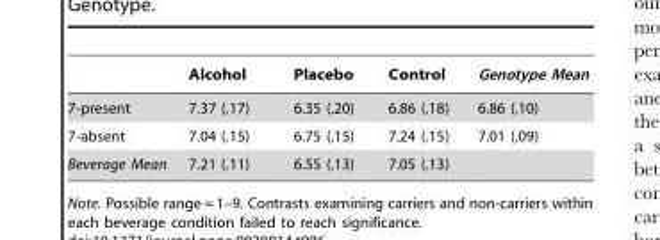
<table><thead><tr><td></td><td>Alcohol</td><td>Placebo</td><td>Control</td><td>Genotype Mean</td></tr></thead><tbody><tr><td>7-present</td><td>7.37 (.17)</td><td>6.35 (.20)</td><td>6.86 (.18)</td><td>6.86 (.10)</td></tr><tr><td>7-absent</td><td>7.04 (.15)</td><td>6.75 (.15)</td><td>7.24 (.15)</td><td>7.01 (.09)</td></tr><tr><td>Beverage Mean</td><td>7.21 (.11)</td><td>6.55 (.13)</td><td>7.05 (.13)</td><td></td></tr></tbody></table>